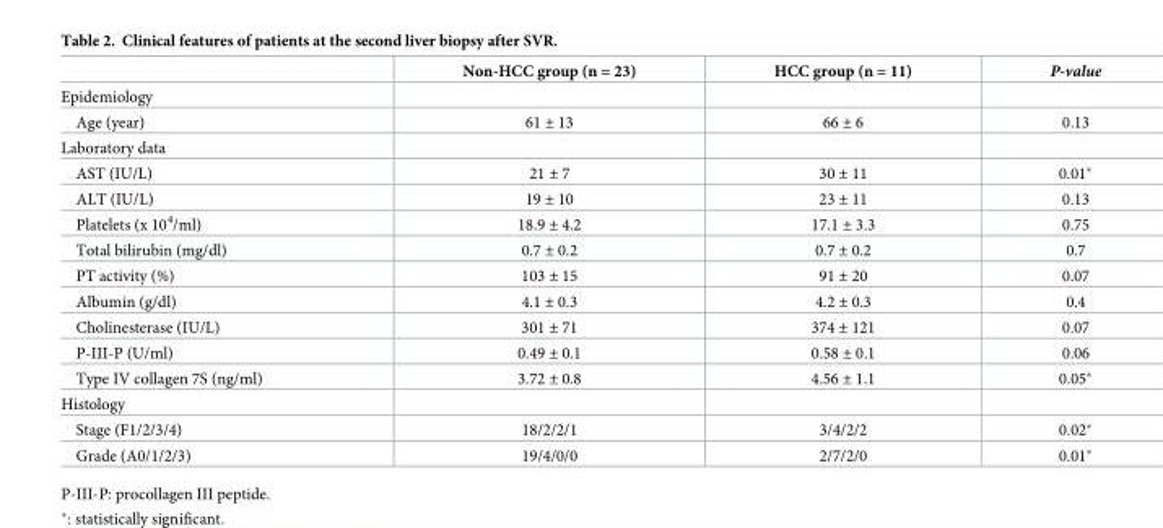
<table><thead><tr><td></td><td>Non-HCC group (n = 23)</td><td>HCC group (n = 11)</td><td>P-value</td></tr></thead><tbody><tr><td colspan="4">Epidemiology</td></tr><tr><td>Age (year)</td><td>61 ± 13</td><td>66 ± 6</td><td>0.13</td></tr><tr><td colspan="4">Laboratory data</td></tr><tr><td>AST (IU/L)</td><td>21 ± 7</td><td>30 ± 11</td><td>0.01*</td></tr><tr><td>ALT (IU/L)</td><td>19 ± 10</td><td>23 ± 11</td><td>0.13</td></tr><tr><td>Platelets (x 10<sup>4</sup>/ml)</td><td>18.9 ± 4.2</td><td>17.1 ± 3.3</td><td>0.75</td></tr><tr><td>Total bilirubin (mg/dl)</td><td>0.7 ± 0.2</td><td>0.7 ± 0.2</td><td>0.7</td></tr><tr><td>PT activity (%)</td><td>103 ± 15</td><td>91 ± 20</td><td>0.07</td></tr><tr><td>Albumin (g/dl)</td><td>4.1 ± 0.3</td><td>4.2 ± 0.3</td><td>0.4</td></tr><tr><td>Cholinesterase (IU/L)</td><td>301 ± 71</td><td>374 ± 121</td><td>0.07</td></tr><tr><td>P-III-P (U/ml)</td><td>0.49 ± 0.1</td><td>0.58 ± 0.1</td><td>0.06</td></tr><tr><td>Type IV collagen 7S (ng/ml)</td><td>3.72 ± 0.8</td><td>4.56 ± 1.1</td><td>0.05*</td></tr><tr><td colspan="4">Histology</td></tr><tr><td>Stage (F1/2/3/4)</td><td>18/2/2/1</td><td>3/4/2/2</td><td>0.02*</td></tr><tr><td>Grade (A0/1/2/3)</td><td>19/4/0/0</td><td>2/7/2/0</td><td>0.01*</td></tr></tbody></table>